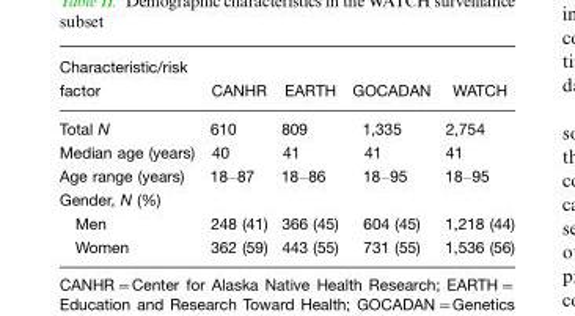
<table><thead><tr><td>Characteristic/risk factor</td><td>CANHR</td><td>EARTH</td><td>GOCADAN</td><td>WATCH</td></tr></thead><tbody><tr><td>Total N</td><td>610</td><td>809</td><td>1,335</td><td>2,754</td></tr><tr><td>Median age (years)</td><td>40</td><td>41</td><td>41</td><td>41</td></tr><tr><td>Age range (years)</td><td>18–87</td><td>18–86</td><td>18–95</td><td>18–95</td></tr><tr><td colspan="5">Gender, N (%)</td></tr><tr><td>Men</td><td>248 (41)</td><td>366 (45)</td><td>604 (45)</td><td>1,218 (44)</td></tr><tr><td>Women</td><td>362 (59)</td><td>443 (55)</td><td>731 (55)</td><td>1,536 (56)</td></tr></tbody></table>